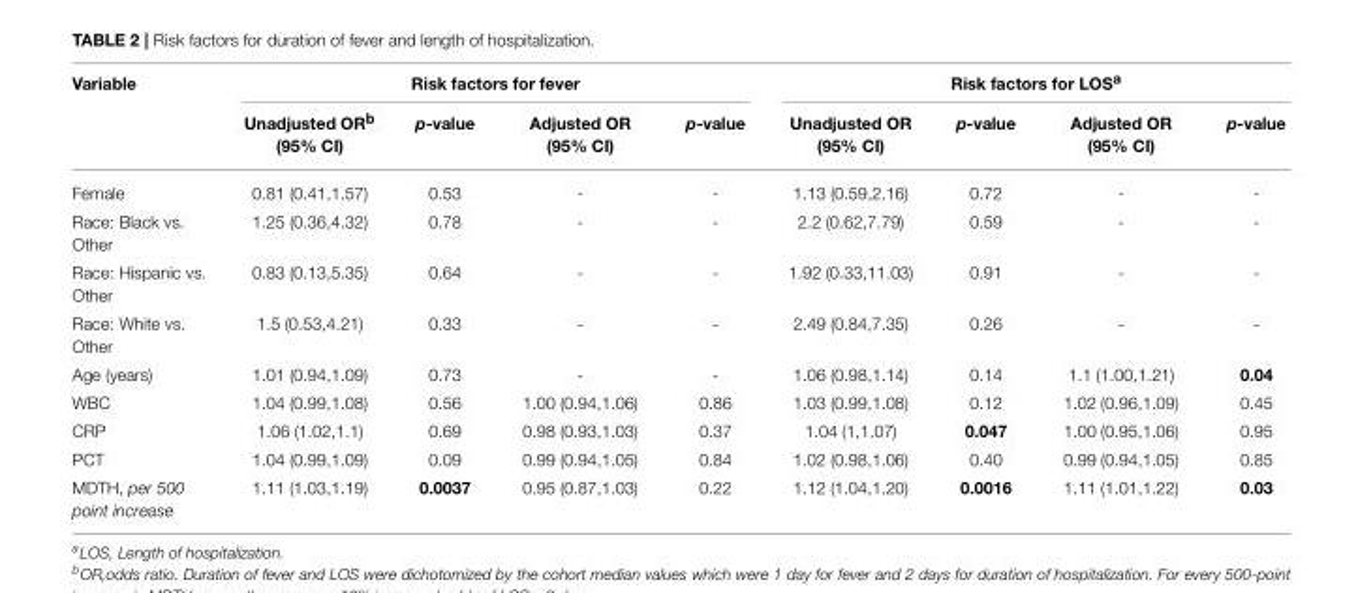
<table><thead><tr><td rowspan="2">Variable</td><td colspan="4">Risk factors for fever</td><td colspan="4">Risk factors for LOS<sup>a</sup></td></tr><tr><td>Unadjusted OR<sup>b</sup> (95% CI)</td><td>p-value</td><td>Adjusted OR (95% CI)</td><td>p-value</td><td>Unadjusted OR (95% CI)</td><td>p-value</td><td>Adjusted OR (95% CI)</td><td>p-value</td></tr></thead><tbody><tr><td>Female</td><td>0.81 (0.41,1.57)</td><td>0.53</td><td>-</td><td>-</td><td>1.13 (0.59,2.16)</td><td>0.72</td><td>-</td><td>-</td></tr><tr><td>Race: Black vs. Other</td><td>1.25 (0.36,4.32)</td><td>0.78</td><td>-</td><td>-</td><td>2.2 (0.62,7.79)</td><td>0.59</td><td>-</td><td>-</td></tr><tr><td>Race: Hispanic vs. Other</td><td>0.83 (0.13,5.35)</td><td>0.64</td><td>-</td><td>-</td><td>1.92 (0.33,11.03)</td><td>0.91</td><td>-</td><td>-</td></tr><tr><td>Race: White vs. Other</td><td>1.5 (0.53,4.21)</td><td>0.33</td><td>-</td><td>-</td><td>2.49 (0.84,7.35)</td><td>0.26</td><td>-</td><td>-</td></tr><tr><td>Age (years)</td><td>1.01 (0.94,1.09)</td><td>0.73</td><td>-</td><td>-</td><td>1.06 (0.98,1.14)</td><td>0.14</td><td>1.1 (1.00,1.21)</td><td>0.04</td></tr><tr><td>WBC</td><td>1.04 (0.99,1.08)</td><td>0.56</td><td>1.00 (0.94,1.06)</td><td>0.86</td><td>1.03 (0.99,1.08)</td><td>0.12</td><td>1.02 (0.96,1.09)</td><td>0.45</td></tr><tr><td>CRP</td><td>1.06 (1.02,1.1)</td><td>0.69</td><td>0.98 (0.93,1.03)</td><td>0.37</td><td>1.04 (1,1.07)</td><td>0.047</td><td>1.00 (0.95,1.06)</td><td>0.95</td></tr><tr><td>PCT</td><td>1.04 (0.99,1.09)</td><td>0.09</td><td>0.99 (0.94,1.05)</td><td>0.84</td><td>1.02 (0.98,1.06)</td><td>0.40</td><td>0.99 (0.94,1.05)</td><td>0.85</td></tr><tr><td>MDTH, per 500 point increase</td><td>1.11 (1.03,1.19)</td><td>0.0037</td><td>0.95 (0.87,1.03)</td><td>0.22</td><td>1.12 (1.04,1.20)</td><td>0.0016</td><td>1.11 (1.01,1.22)</td><td>0.03</td></tr></tbody></table>